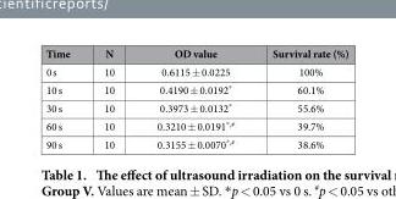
<table><thead><tr><td>Time</td><td>N</td><td>OD value</td><td>Survival rate (%)</td></tr></thead><tbody><tr><td>0 s</td><td>10</td><td>0.6115 ± 0.0225</td><td>100%</td></tr><tr><td>10 s</td><td>10</td><td>0.4190 ± 0.0192*</td><td>60.1%</td></tr><tr><td>30 s</td><td>10</td><td>0.3973 ± 0.0132*</td><td>55.6%</td></tr><tr><td>60 s</td><td>10</td><td>0.3210 ± 0.0191*,#</td><td>39.7%</td></tr><tr><td>90 s</td><td>10</td><td>0.3155 ± 0.0070*,#</td><td>38.6%</td></tr></tbody></table>